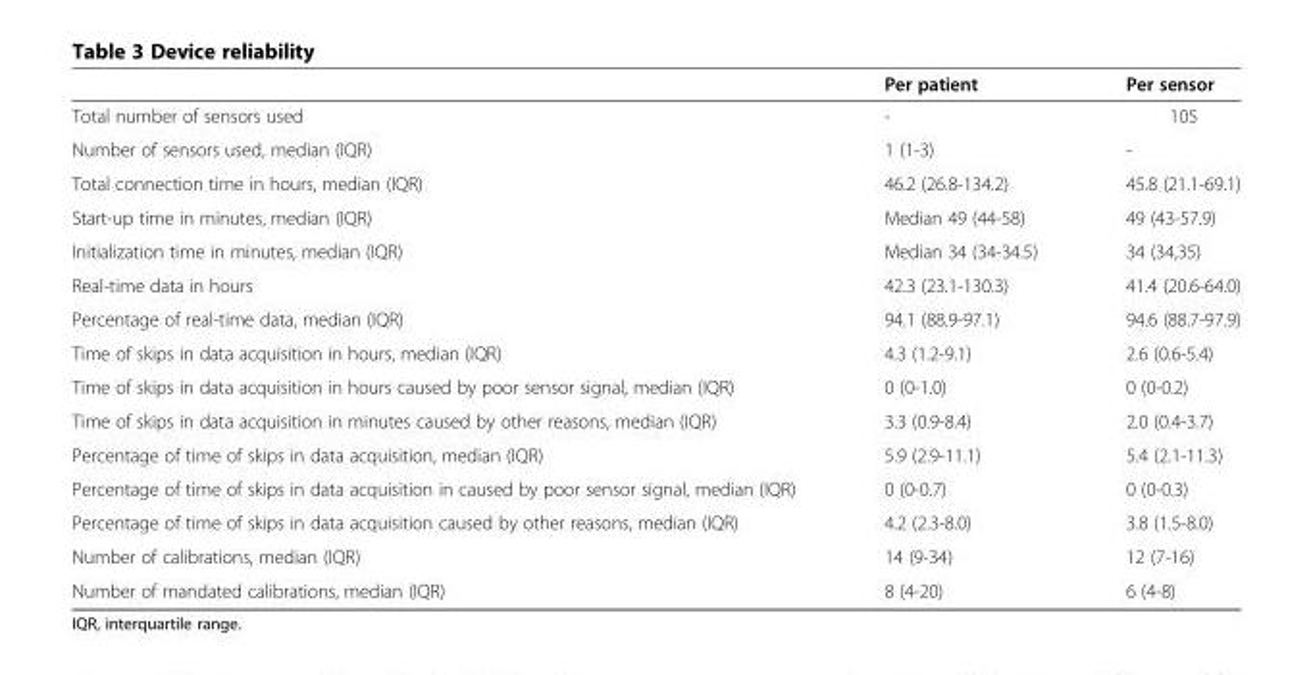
<table><thead><tr><td></td><td>Per patient</td><td>Per sensor</td></tr></thead><tbody><tr><td>Total number of sensors used</td><td>-</td><td>105</td></tr><tr><td>Number of sensors used, median (IQR)</td><td>1 (1-3)</td><td>-</td></tr><tr><td>Total connection time in hours, median (IQR)</td><td>46.2 (26.8-134.2)</td><td>45.8 (21.1-69.1)</td></tr><tr><td>Start-up time in minutes, median (IQR)</td><td>Median 49 (44-58)</td><td>49 (43-57.9)</td></tr><tr><td>Initialization time in minutes, median (IQR)</td><td>Median 34 (34-34.5)</td><td>34 (34,35)</td></tr><tr><td>Real-time data in hours</td><td>42.3 (23.1-130.3)</td><td>41.4 (20.6-64.0)</td></tr><tr><td>Percentage of real-time data, median (IQR)</td><td>94.1 (88.9-97.1)</td><td>94.6 (88.7-97.9)</td></tr><tr><td>Time of skips in data acquisition in hours, median (IQR)</td><td>4.3 (1.2-9.1)</td><td>2.6 (0.6-5.4)</td></tr><tr><td>Time of skips in data acquisition in hours caused by poor sensor signal, median (IQR)</td><td>0 (0-1.0)</td><td>0 (0-0.2)</td></tr><tr><td>Time of skips in data acquisition in minutes caused by other reasons, median (IQR)</td><td>3.3 (0.9-8.4)</td><td>2.0 (0.4-3.7)</td></tr><tr><td>Percentage of time of skips in data acquisition, median (IQR)</td><td>5.9 (2.9-11.1)</td><td>5.4 (2.1-11.3)</td></tr><tr><td>Percentage of time of skips in data acquisition in caused by poor sensor signal, median (IQR)</td><td>0 (0-0.7)</td><td>0 (0-0.3)</td></tr><tr><td>Percentage of time of skips in data acquisition caused by other reasons, median (IQR)</td><td>4.2 (2.3-8.0)</td><td>3.8 (1.5-8.0)</td></tr><tr><td>Number of calibrations, median (IQR)</td><td>14 (9-34)</td><td>12 (7-16)</td></tr><tr><td>Number of mandated calibrations, median (IQR)</td><td>8 (4-20)</td><td>6 (4-8)</td></tr></tbody></table>